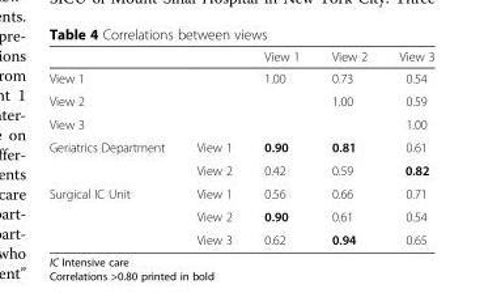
<table><thead><tr><td></td><td></td><td>View 1</td><td>View 2</td><td>View 3</td></tr></thead><tbody><tr><td>View 1</td><td></td><td>1.00</td><td>0.73</td><td>0.54</td></tr><tr><td>View 2</td><td></td><td></td><td>1.00</td><td>0.59</td></tr><tr><td>View 3</td><td></td><td></td><td></td><td>1.00</td></tr><tr><td rowspan="2">Geriatrics Department</td><td>View 1</td><td>0.90</td><td>0.81</td><td>0.61</td></tr><tr><td>View 2</td><td>0.42</td><td>0.59</td><td>0.82</td></tr><tr><td rowspan="3">Surgical IC Unit</td><td>View 1</td><td>0.56</td><td>0.66</td><td>0.71</td></tr><tr><td>View 2</td><td>0.90</td><td>0.61</td><td>0.54</td></tr><tr><td>View 3</td><td>0.62</td><td>0.94</td><td>0.65</td></tr></tbody></table>